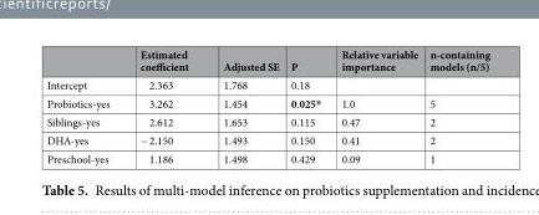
<table><thead><tr><td></td><td>Estimated coefficient</td><td>Adjusted SE</td><td>P</td><td>Relative variable importance</td><td>n-containing models (n/5)</td></tr></thead><tbody><tr><td>Intercept</td><td>2.363</td><td>1.768</td><td>0.18</td><td></td><td></td></tr><tr><td>Probiotics-yes</td><td>3.262</td><td>1.454</td><td>0.025*</td><td>1.0</td><td>5</td></tr><tr><td>Siblings-yes</td><td>2.612</td><td>1.653</td><td>0.115</td><td>0.47</td><td>2</td></tr><tr><td>DHA-yes</td><td>−2.150</td><td>1.493</td><td>0.150</td><td>0.41</td><td>2</td></tr><tr><td>Preschool-yes</td><td>1.186</td><td>1.498</td><td>0.429</td><td>0.09</td><td>1</td></tr></tbody></table>